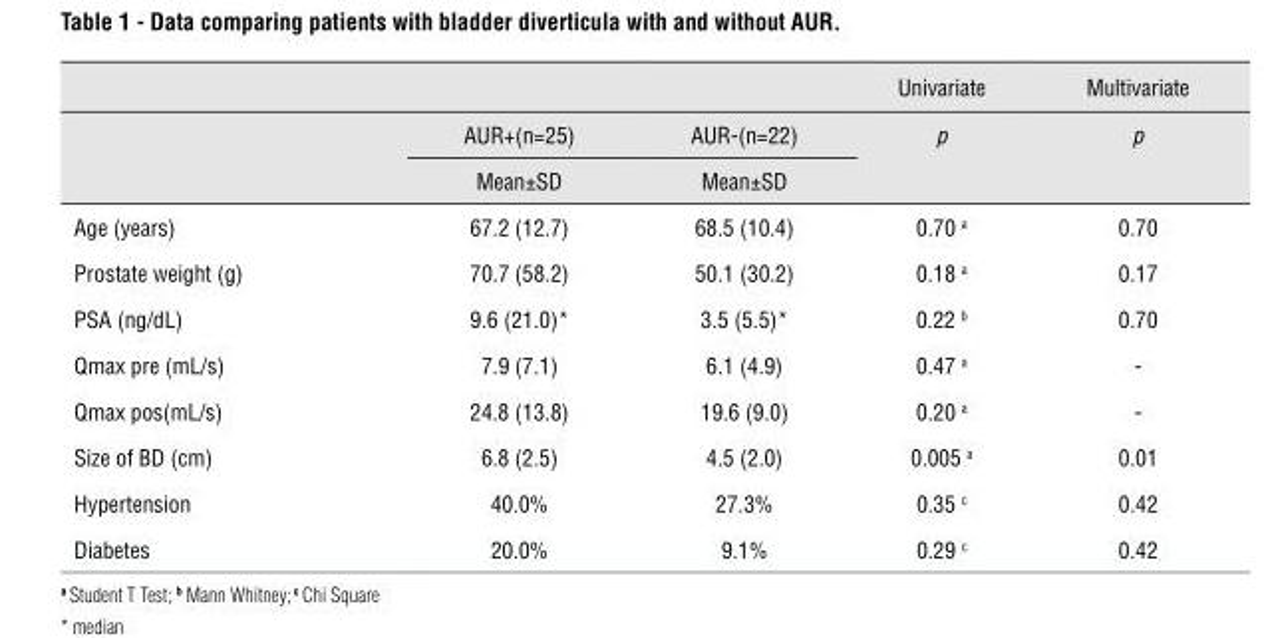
<table><thead><tr><td rowspan="3"></td><td rowspan="3">AUR+(n=25) Mean±SD</td><td rowspan="3">AUR-(n=22) Mean±SD</td><td rowspan="3">Univariate p</td><td rowspan="3">Multivariate p</td></tr><tr></tr><tr></tr></thead><tbody><tr><td>Age (years)</td><td>67.2 (12.7)</td><td>68.5 (10.4)</td><td>0.70 a</td><td>0.70</td></tr><tr><td>Prostate weight (g)</td><td>70.7 (58.2)</td><td>50.1 (30.2)</td><td>0.18 a</td><td>0.17</td></tr><tr><td>PSA (ng/dL)</td><td>9.6 (21.0)*</td><td>3.5 (5.5)*</td><td>0.22 b</td><td>0.70</td></tr><tr><td>Qmax pre (mL/s)</td><td>7.9 (7.1)</td><td>6.1 (4.9)</td><td>0.47 a</td><td>-</td></tr><tr><td>Qmax pos(mL/s)</td><td>24.8 (13.8)</td><td>19.6 (9.0)</td><td>0.20 a</td><td>-</td></tr><tr><td>Size of BD (cm)</td><td>6.8 (2.5)</td><td>4.5 (2.0)</td><td>0.005 a</td><td>0.01</td></tr><tr><td>Hypertension</td><td>40.0%</td><td>27.3%</td><td>0.35 c</td><td>0.42</td></tr><tr><td>Diabetes</td><td>20.0%</td><td>9.1%</td><td>0.29 c</td><td>0.42</td></tr></tbody></table>